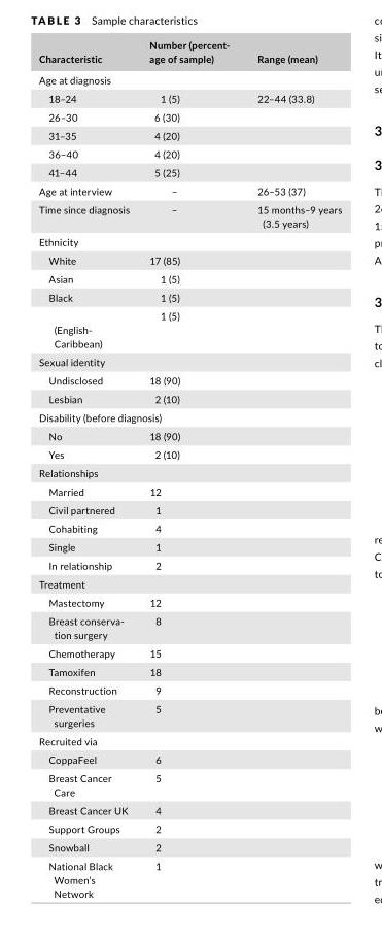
<table><thead><tr><td>Characteristic</td><td>Number (percent- age of sample)</td><td>Range (mean)</td></tr></thead><tbody><tr><td colspan="3">Age at diagnosis</td></tr><tr><td>18–24</td><td>1 (5)</td><td>22–44 (33.8)</td></tr><tr><td>26–30</td><td>6 (30)</td><td></td></tr><tr><td>31–35</td><td>4 (20)</td><td></td></tr><tr><td>36–40</td><td>4 (20)</td><td></td></tr><tr><td>41–44</td><td>5 (25)</td><td></td></tr><tr><td>Age at interview</td><td>–</td><td>26–53 (37)</td></tr><tr><td>Time since diagnosis</td><td>–</td><td>15 months–9 years (3.5 years)</td></tr><tr><td colspan="3">Ethnicity</td></tr><tr><td>White</td><td>17 (85)</td><td></td></tr><tr><td>Asian</td><td>1 (5)</td><td></td></tr><tr><td>Black</td><td>1 (5)</td><td></td></tr><tr><td>(English- Caribbean)</td><td>1 (5)</td><td></td></tr><tr><td colspan="3">Sexual identity</td></tr><tr><td>Undisclosed</td><td>18 (90)</td><td></td></tr><tr><td>Lesbian</td><td>2 (10)</td><td></td></tr><tr><td colspan="3">Disability (before diagnosis)</td></tr><tr><td>No</td><td>18 (90)</td><td></td></tr><tr><td>Yes</td><td>2 (10)</td><td></td></tr><tr><td colspan="3">Relationships</td></tr><tr><td>Married</td><td>12</td><td></td></tr><tr><td>Civil partnered</td><td>1</td><td></td></tr><tr><td>Cohabiting</td><td>4</td><td></td></tr><tr><td>Single</td><td>1</td><td></td></tr><tr><td>In relationship</td><td>2</td><td></td></tr><tr><td colspan="3">Treatment</td></tr><tr><td>Mastectomy</td><td>12</td><td></td></tr><tr><td>Breast conserva- tion surgery</td><td>8</td><td></td></tr><tr><td>Chemotherapy</td><td>15</td><td></td></tr><tr><td>Tamoxifen</td><td>18</td><td></td></tr><tr><td>Reconstruction</td><td>9</td><td></td></tr><tr><td>Preventative surgeries</td><td>5</td><td></td></tr><tr><td colspan="3">Recruited via</td></tr><tr><td>CoppaFeel</td><td>6</td><td></td></tr><tr><td>Breast Cancer Care</td><td>5</td><td></td></tr><tr><td>Breast Cancer UK</td><td>4</td><td></td></tr><tr><td>Support Groups</td><td>2</td><td></td></tr><tr><td>Snowball</td><td>2</td><td></td></tr><tr><td>National Black Women’s Network</td><td>1</td><td></td></tr></tbody></table>